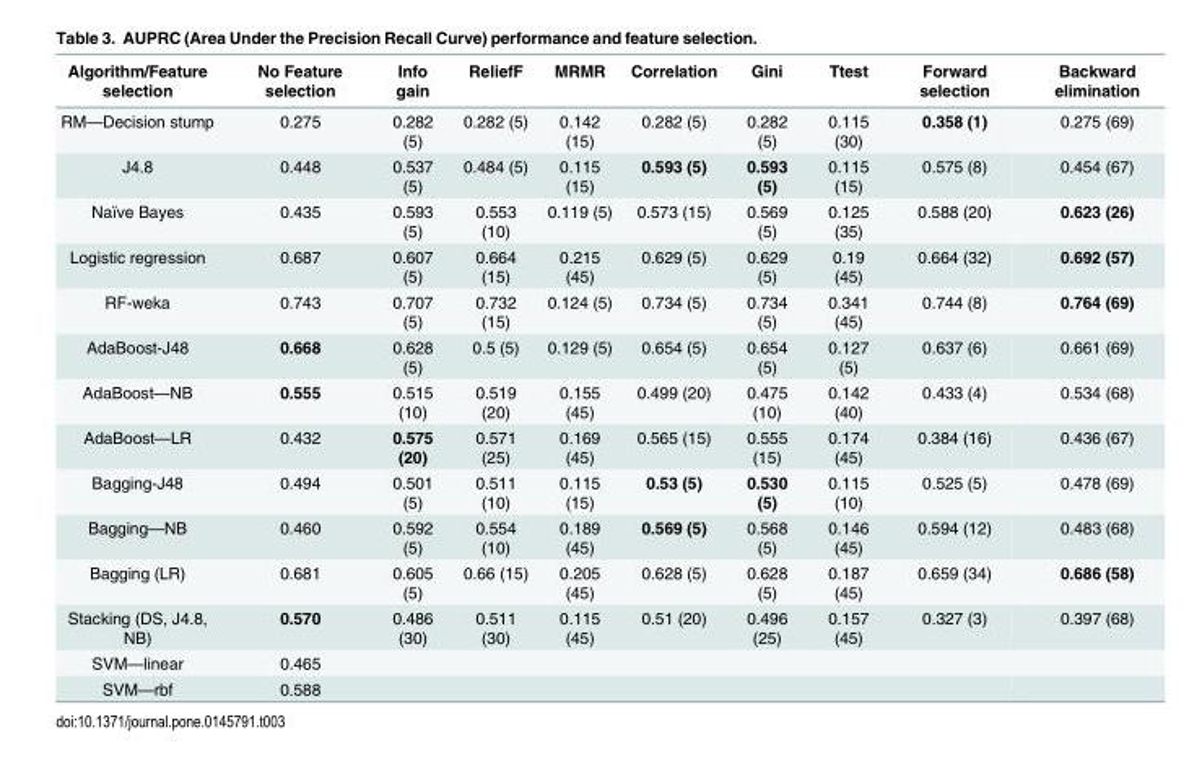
<table><thead><tr><td>Algorithm/Feature selection</td><td>No Feature selection</td><td>Info gain</td><td>ReliefF</td><td>MRMR</td><td>Correlation</td><td>Gini</td><td>Ttest</td><td>Forward selection</td><td>Backward elimination</td></tr></thead><tbody><tr><td>RM—Decision stump</td><td>0.275</td><td>0.282 (5)</td><td>0.282 (5)</td><td>0.142 (15)</td><td>0.282 (5)</td><td>0.282 (5)</td><td>0.115 (30)</td><td>0.358 (1)</td><td>0.275 (69)</td></tr><tr><td>J4.8</td><td>0.448</td><td>0.537 (5)</td><td>0.484 (5)</td><td>0.115 (15)</td><td>0.593 (5)</td><td>0.593 (5)</td><td>0.115 (15)</td><td>0.575 (8)</td><td>0.454 (67)</td></tr><tr><td>Naïve Bayes</td><td>0.435</td><td>0.593 (5)</td><td>0.553 (10)</td><td>0.119 (5)</td><td>0.573 (15)</td><td>0.569 (5)</td><td>0.125 (35)</td><td>0.588 (20)</td><td>0.623 (26)</td></tr><tr><td>Logistic regression</td><td>0.687</td><td>0.607 (5)</td><td>0.664 (15)</td><td>0.215 (45)</td><td>0.629 (5)</td><td>0.629 (5)</td><td>0.19 (45)</td><td>0.664 (32)</td><td>0.692 (57)</td></tr><tr><td>RF-weka</td><td>0.743</td><td>0.707 (5)</td><td>0.732 (15)</td><td>0.124 (5)</td><td>0.734 (5)</td><td>0.734 (5)</td><td>0.341 (45)</td><td>0.744 (8)</td><td>0.764 (69)</td></tr><tr><td>AdaBoost-J48</td><td>0.668</td><td>0.628 (5)</td><td>0.5 (5)</td><td>0.129 (5)</td><td>0.654 (5)</td><td>0.654 (5)</td><td>0.127 (5)</td><td>0.637 (6)</td><td>0.661 (69)</td></tr><tr><td>AdaBoost—NB</td><td>0.555</td><td>0.515 (10)</td><td>0.519 (20)</td><td>0.155 (45)</td><td>0.499 (20)</td><td>0.475 (10)</td><td>0.142 (40)</td><td>0.433 (4)</td><td>0.534 (68)</td></tr><tr><td>AdaBoost—LR</td><td>0.432</td><td>0.575 (20)</td><td>0.571 (25)</td><td>0.169 (45)</td><td>0.565 (15)</td><td>0.555 (15)</td><td>0.174 (45)</td><td>0.384 (16)</td><td>0.436 (67)</td></tr><tr><td>Bagging-J48</td><td>0.494</td><td>0.501 (5)</td><td>0.511 (10)</td><td>0.115 (15)</td><td>0.53 (5)</td><td>0.530 (5)</td><td>0.115 (10)</td><td>0.525 (5)</td><td>0.478 (69)</td></tr><tr><td>Bagging—NB</td><td>0.460</td><td>0.592 (5)</td><td>0.554 (10)</td><td>0.189 (45)</td><td>0.569 (5)</td><td>0.568 (5)</td><td>0.146 (45)</td><td>0.594 (12)</td><td>0.483 (68)</td></tr><tr><td>Bagging (LR)</td><td>0.681</td><td>0.605 (5)</td><td>0.66 (15)</td><td>0.205 (45)</td><td>0.628 (5)</td><td>0.628 (5)</td><td>0.187 (45)</td><td>0.659 (34)</td><td>0.686 (58)</td></tr><tr><td>Stacking (DS, J4.8, NB)</td><td>0.570</td><td>0.486 (30)</td><td>0.511 (30)</td><td>0.115 (45)</td><td>0.51 (20)</td><td>0.496 (25)</td><td>0.157 (45)</td><td>0.327 (3)</td><td>0.397 (68)</td></tr><tr><td>SVM—linear</td><td>0.465</td><td></td><td></td><td></td><td></td><td></td><td></td><td></td><td></td></tr><tr><td>SVM—rbf</td><td>0.588</td><td></td><td></td><td></td><td></td><td></td><td></td><td></td><td></td></tr></tbody></table>